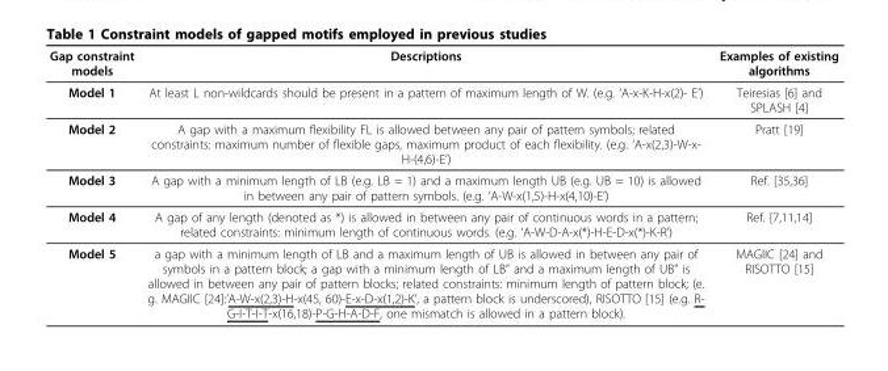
<table><thead><tr><td>Gap constraint models</td><td>Descriptions</td><td>Examples of existing algorithms</td></tr></thead><tbody><tr><td>Model 1</td><td>At least L non-wildcards should be present in a pattern of maximum length of W. (e.g. ‘A-x-K-H-x(2)- E’)</td><td>Teiresias [6] and SPLASH [4]</td></tr><tr><td>Model 2</td><td>A gap with a maximum flexibility FL is allowed between any pair of pattern symbols; related constraints: maximum number of flexible gaps, maximum product of each flexibility. (e.g. ‘A-x(2,3)-W-x- H-(4,6)-E’)</td><td>Pratt [19]</td></tr><tr><td>Model 3</td><td>A gap with a minimum length of LB (e.g. LB = 1) and a maximum length UB (e.g. UB = 10) is allowed in between any pair of pattern symbols. (e.g. ‘A-W-x(1,5)-H-x(4,10)-E’)</td><td>Ref. [35,36]</td></tr><tr><td>Model 4</td><td>A gap of any length (denoted as *) is allowed in between any pair of continuous words in a pattern; related constraints: minimum length of continuous words. (e.g. ‘A-W-D-A-x(*)-H-E-D-x(*)-K-R’)</td><td>Ref. [7,11,14]</td></tr><tr><td>Model 5</td><td>a gap with a minimum length of LB and a maximum length of UB is allowed in between any pair of symbols in a pattern block; a gap with a minimum length of LB” and a maximum length of UB” is allowed in between any pair of pattern blocks; related constraints: minimum length of pattern block; (e. g. MAGIIC [24]:’A-W-x(2,3)-H-x(45, 60)-E-x-D-x(1,2)-K’, a pattern block is underscored), RISOTTO [15] (e.g. R- G-I-T-I-T-x(16,18)-P-G-H-A-D-F, one mismatch is allowed in a pattern block).</td><td>MAGIIC [24] and RISOTTO [15]</td></tr></tbody></table>